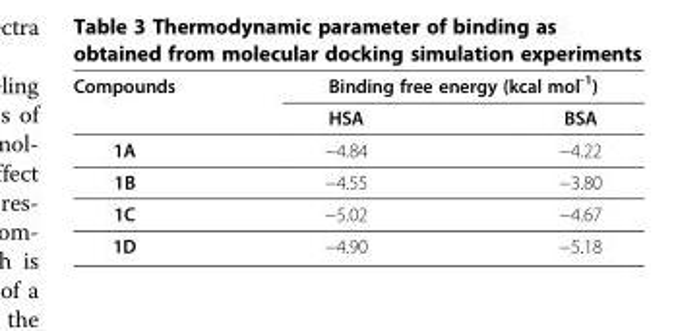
<table><thead><tr><td rowspan="2">Compounds</td><td colspan="2">Binding free energy (kcal mol<sup>-1</sup>)</td></tr><tr><td>HSA</td><td>BSA</td></tr></thead><tbody><tr><td>1A</td><td>−4.84</td><td>−4.22</td></tr><tr><td>1B</td><td>−4.55</td><td>−3.80</td></tr><tr><td>1C</td><td>−5.02</td><td>−4.67</td></tr><tr><td>1D</td><td>−4.90</td><td>−5.18</td></tr></tbody></table>